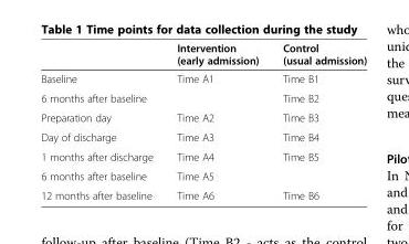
<table><thead><tr><td></td><td>Intervention (early admission)</td><td>Control (usual admission)</td></tr></thead><tbody><tr><td>Baseline</td><td>Time A1</td><td>Time B1</td></tr><tr><td>6 months after baseline</td><td></td><td>Time B2</td></tr><tr><td>Preparation day</td><td>Time A2</td><td>Time B3</td></tr><tr><td>Day of discharge</td><td>Time A3</td><td>Time B4</td></tr><tr><td>1 months after discharge</td><td>Time A4</td><td>Time B5</td></tr><tr><td>6 months after baseline</td><td>Time A5</td><td></td></tr><tr><td>12 months after baseline</td><td>Time A6</td><td>Time B6</td></tr></tbody></table>